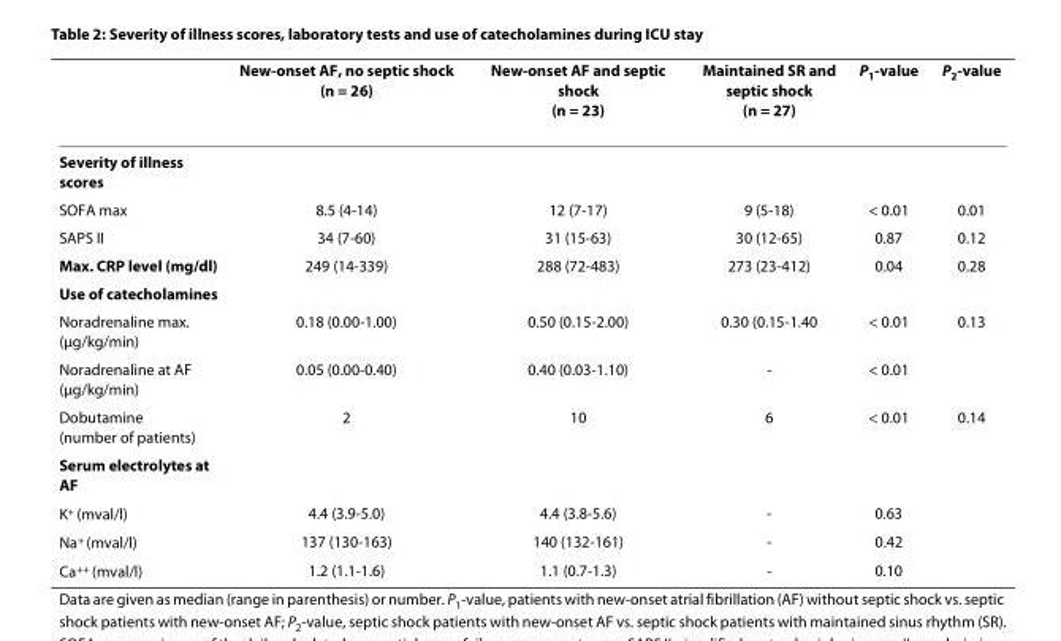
<table><thead><tr><td></td><td>New-onset AF, no septic shock (n = 26)</td><td>New-onset AF and septic shock (n = 23)</td><td>Maintained SR and septic shock (n = 27)</td><td>P<sub>1</sub>-value</td><td>P<sub>2</sub>-value</td></tr></thead><tbody><tr><td colspan="6">Severity of illness scores</td></tr><tr><td>SOFA max</td><td>8.5 (4-14)</td><td>12 (7-17)</td><td>9 (5-18)</td><td>&lt; 0.01</td><td>0.01</td></tr><tr><td>SAPS II</td><td>34 (7-60)</td><td>31 (15-63)</td><td>30 (12-65)</td><td>0.87</td><td>0.12</td></tr><tr><td>Max. CRP level (mg/dl)</td><td>249 (14-339)</td><td>288 (72-483)</td><td>273 (23-412)</td><td>0.04</td><td>0.28</td></tr><tr><td colspan="6">Use of catecholamines</td></tr><tr><td>Noradrenaline max. (μg/kg/min)</td><td>0.18 (0.00-1.00)</td><td>0.50 (0.15-2.00)</td><td>0.30 (0.15-1.40</td><td>&lt; 0.01</td><td>0.13</td></tr><tr><td>Noradrenaline at AF (μg/kg/min)</td><td>0.05 (0.00-0.40)</td><td>0.40 (0.03-1.10)</td><td>-</td><td>&lt; 0.01</td><td></td></tr><tr><td>Dobutamine (number of patients)</td><td>2</td><td>10</td><td>6</td><td>&lt; 0.01</td><td>0.14</td></tr><tr><td colspan="6">Serum electrolytes at AF</td></tr><tr><td>K<sup>+</sup> (mval/l)</td><td>4.4 (3.9-5.0)</td><td>4.4 (3.8-5.6)</td><td>-</td><td>0.63</td><td></td></tr><tr><td>Na<sup>+</sup> (mval/l)</td><td>137 (130-163)</td><td>140 (132-161)</td><td>-</td><td>0.42</td><td></td></tr><tr><td>Ca<sup>++</sup> (mval/l)</td><td>1.2 (1.1-1.6)</td><td>1.1 (0.7-1.3)</td><td>-</td><td>0.10</td><td></td></tr></tbody></table>